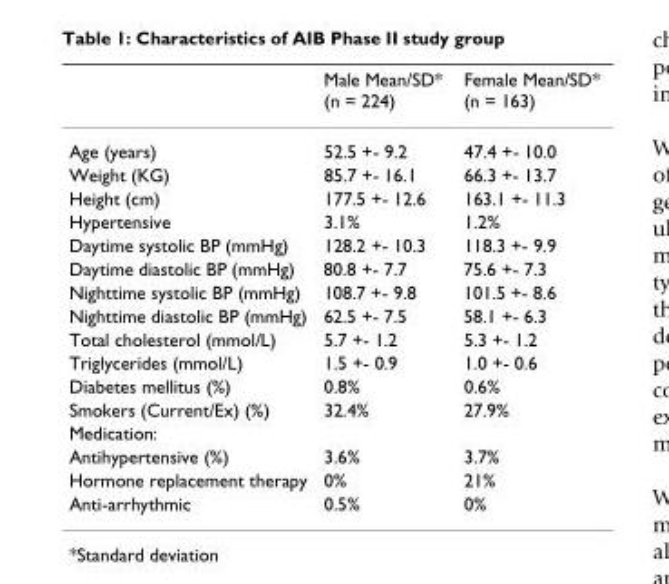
<table><thead><tr><td></td><td>Male Mean/SD* (n = 224)</td><td>Female Mean/SD* (n = 163)</td></tr></thead><tbody><tr><td>Age (years)</td><td>52.5 +- 9.2</td><td>47.4 +- 10.0</td></tr><tr><td>Weight (KG)</td><td>85.7 +- 16.1</td><td>66.3 +- 13.7</td></tr><tr><td>Height (cm)</td><td>177.5 +- 12.6</td><td>163.1 +- 11.3</td></tr><tr><td>Hypertensive</td><td>3.1%</td><td>1.2%</td></tr><tr><td>Daytime systolic BP (mmHg)</td><td>128.2 +- 10.3</td><td>118.3 +- 9.9</td></tr><tr><td>Daytime diastolic BP (mmHg)</td><td>80.8 +- 7.7</td><td>75.6 +- 7.3</td></tr><tr><td>Nighttime systolic BP (mmHg)</td><td>108.7 +- 9.8</td><td>101.5 +- 8.6</td></tr><tr><td>Nighttime diastolic BP (mmHg)</td><td>62.5 +- 7.5</td><td>58.1 +- 6.3</td></tr><tr><td>Total cholesterol (mmol/L)</td><td>5.7 +- 1.2</td><td>5.3 +- 1.2</td></tr><tr><td>Triglycerides (mmol/L)</td><td>1.5 +- 0.9</td><td>1.0 +- 0.6</td></tr><tr><td>Diabetes mellitus (%)</td><td>0.8%</td><td>0.6%</td></tr><tr><td>Smokers (Current/Ex) (%)</td><td>32.4%</td><td>27.9%</td></tr><tr><td colspan="3">Medication:</td></tr><tr><td>Antihypertensive (%)</td><td>3.6%</td><td>3.7%</td></tr><tr><td>Hormone replacement therapy</td><td>0%</td><td>21%</td></tr><tr><td>Anti-arrhythmic</td><td>0.5%</td><td>0%</td></tr></tbody></table>